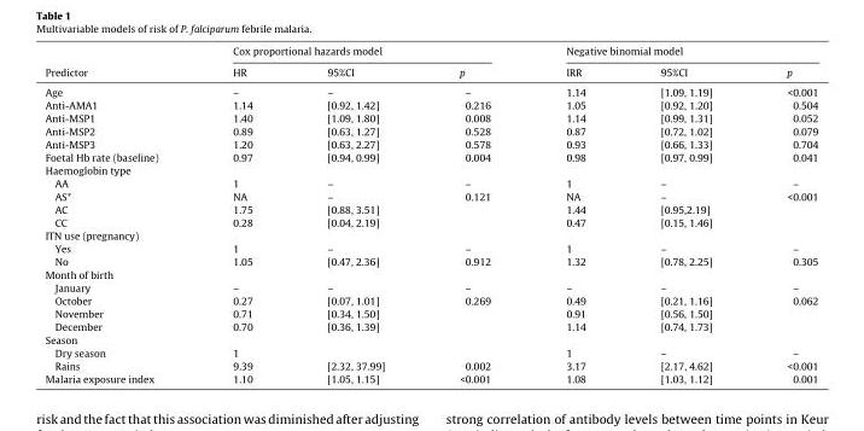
<table><thead><tr><td rowspan="2">Predictor</td><td colspan="3">Cox proportional hazards model</td><td colspan="3">Negative binomial model</td></tr><tr><td>HR</td><td>95%CI</td><td>p</td><td>IRR</td><td>95%CI</td><td>p</td></tr></thead><tbody><tr><td>Age</td><td>–</td><td>–</td><td>–</td><td>1.14</td><td>[1.09, 1.19]</td><td>&lt;0.001</td></tr><tr><td>Anti-AMA1</td><td>1.14</td><td>[0.92, 1.42]</td><td>0.216</td><td>1.05</td><td>[0.92, 1.20]</td><td>0.504</td></tr><tr><td>Anti-MSP1</td><td>1.40</td><td>[1.09, 1.80]</td><td>0.008</td><td>1.14</td><td>[0.99, 1.31]</td><td>0.052</td></tr><tr><td>Anti-MSP2</td><td>0.89</td><td>[0.63, 1.27]</td><td>0.528</td><td>0.87</td><td>[0.72, 1.02]</td><td>0.079</td></tr><tr><td>Anti-MSP3</td><td>1.20</td><td>[0.63, 2.27]</td><td>0.578</td><td>0.93</td><td>[0.66, 1.33]</td><td>0.704</td></tr><tr><td>Foetal Hb rate (baseline)</td><td>0.97</td><td>[0.94, 0.99]</td><td>0.004</td><td>0.98</td><td>[0.97, 0.99]</td><td>0.041</td></tr><tr><td colspan="7">Haemoglobin type</td></tr><tr><td>AA</td><td>1</td><td>–</td><td>–</td><td>1</td><td>–</td><td>–</td></tr><tr><td>AS*</td><td>NA</td><td>–</td><td>0.121</td><td>NA</td><td>–</td><td>&lt;0.001</td></tr><tr><td>AC</td><td>1.75</td><td>[0.88, 3.51]</td><td></td><td>1.44</td><td>[0.95,2.19]</td><td></td></tr><tr><td>CC</td><td>0.28</td><td>[0.04, 2.19]</td><td></td><td>0.47</td><td>[0.15, 1.46]</td><td></td></tr><tr><td colspan="7">ITN use (pregnancy)</td></tr><tr><td>Yes</td><td>1</td><td>–</td><td>–</td><td>1</td><td>–</td><td>–</td></tr><tr><td>No</td><td>1.05</td><td>[0.47, 2.36]</td><td>0.912</td><td>1.32</td><td>[0.78, 2.25]</td><td>0.305</td></tr><tr><td colspan="7">Month of birth</td></tr><tr><td>January</td><td>–</td><td>–</td><td>–</td><td>–</td><td>–</td><td>–</td></tr><tr><td>October</td><td>0.27</td><td>[0.07, 1.01]</td><td>0.269</td><td>0.49</td><td>[0.21, 1.16]</td><td>0.062</td></tr><tr><td>November</td><td>0.71</td><td>[0.34, 1.50]</td><td></td><td>0.91</td><td>[0.56, 1.50]</td><td></td></tr><tr><td>December</td><td>0.70</td><td>[0.36, 1.39]</td><td></td><td>1.14</td><td>[0.74, 1.73]</td><td></td></tr><tr><td colspan="7">Season</td></tr><tr><td>Dry season</td><td>1</td><td></td><td></td><td>1</td><td>–</td><td>–</td></tr><tr><td>Rains</td><td>9.39</td><td>[2.32, 37.99]</td><td>0.002</td><td>3.17</td><td>[2.17, 4.62]</td><td>&lt;0.001</td></tr><tr><td>Malaria exposure index</td><td>1.10</td><td>[1.05, 1.15]</td><td>&lt;0.001</td><td>1.08</td><td>[1.03, 1.12]</td><td>0.001</td></tr></tbody></table>